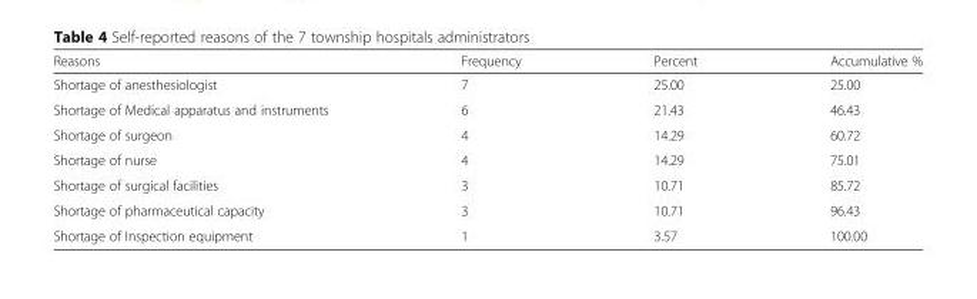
<table><thead><tr><td>Reasons</td><td>Frequency</td><td>Percent</td><td>Accumulative %</td></tr></thead><tbody><tr><td>Shortage of anesthesiologist</td><td>7</td><td>25.00</td><td>25.00</td></tr><tr><td>Shortage of Medical apparatus and instruments</td><td>6</td><td>21.43</td><td>46.43</td></tr><tr><td>Shortage of surgeon</td><td>4</td><td>14.29</td><td>60.72</td></tr><tr><td>Shortage of nurse</td><td>4</td><td>14.29</td><td>75.01</td></tr><tr><td>Shortage of surgical facilities</td><td>3</td><td>10.71</td><td>85.72</td></tr><tr><td>Shortage of pharmaceutical capacity</td><td>3</td><td>10.71</td><td>96.43</td></tr><tr><td>Shortage of Inspection equipment</td><td>1</td><td>3.57</td><td>100.00</td></tr></tbody></table>